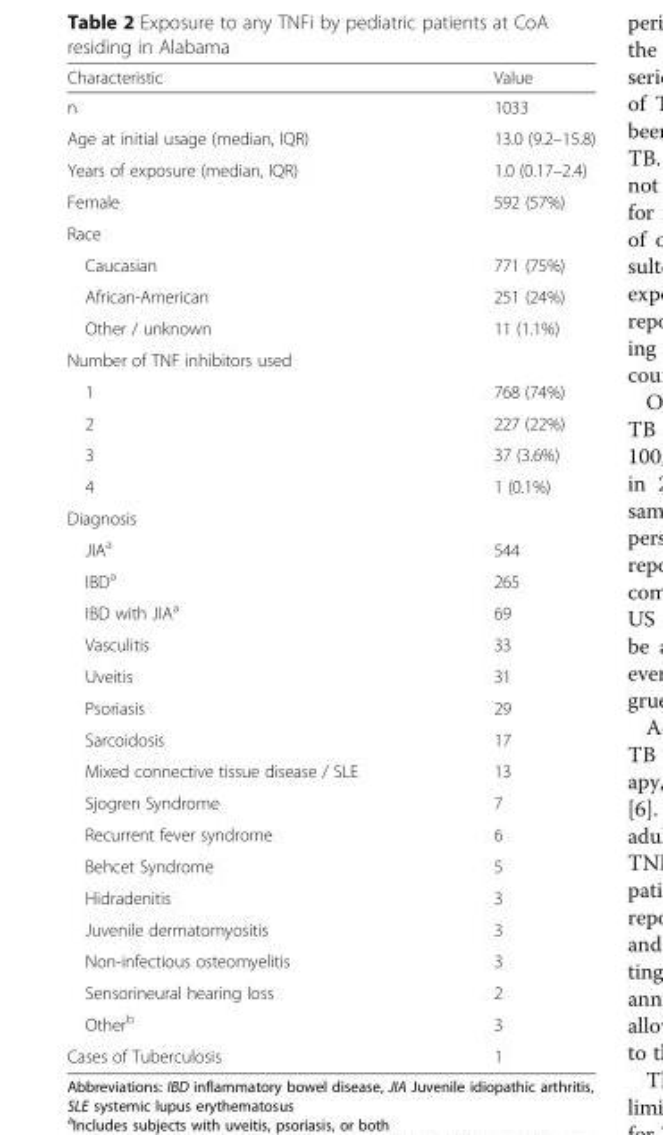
<table><thead><tr><td>Characteristic</td><td>Value</td></tr></thead><tbody><tr><td>n</td><td>1033</td></tr><tr><td>Age at initial usage (median, IQR)</td><td>13.0 (9.2–15.8)</td></tr><tr><td>Years of exposure (median, IQR)</td><td>1.0 (0.17–2.4)</td></tr><tr><td>Female</td><td>592 (57%)</td></tr><tr><td colspan="2">Race</td></tr><tr><td>Caucasian</td><td>771 (75%)</td></tr><tr><td>African-American</td><td>251 (24%)</td></tr><tr><td>Other / unknown</td><td>11 (1.1%)</td></tr><tr><td colspan="2">Number of TNF inhibitors used</td></tr><tr><td>1</td><td>768 (74%)</td></tr><tr><td>2</td><td>227 (22%)</td></tr><tr><td>3</td><td>37 (3.6%)</td></tr><tr><td>4</td><td>1 (0.1%)</td></tr><tr><td colspan="2">Diagnosis</td></tr><tr><td>JIA<sup>a</sup></td><td>544</td></tr><tr><td>IBD<sup>a</sup></td><td>265</td></tr><tr><td>IBD with JIA<sup>a</sup></td><td>69</td></tr><tr><td>Vasculitis</td><td>33</td></tr><tr><td>Uveitis</td><td>31</td></tr><tr><td>Psoriasis</td><td>29</td></tr><tr><td>Sarcoidosis</td><td>17</td></tr><tr><td>Mixed connective tissue disease / SLE</td><td>13</td></tr><tr><td>Sjogren Syndrome</td><td>7</td></tr><tr><td>Recurrent fever syndrome</td><td>6</td></tr><tr><td>Behcet Syndrome</td><td>5</td></tr><tr><td>Hidradenitis</td><td>3</td></tr><tr><td>Juvenile dermatomyositis</td><td>3</td></tr><tr><td>Non-infectious osteomyelitis</td><td>3</td></tr><tr><td>Sensorineural hearing loss</td><td>2</td></tr><tr><td>Other<sup>b</sup></td><td>3</td></tr><tr><td>Cases of Tuberculosis</td><td>1</td></tr></tbody></table>